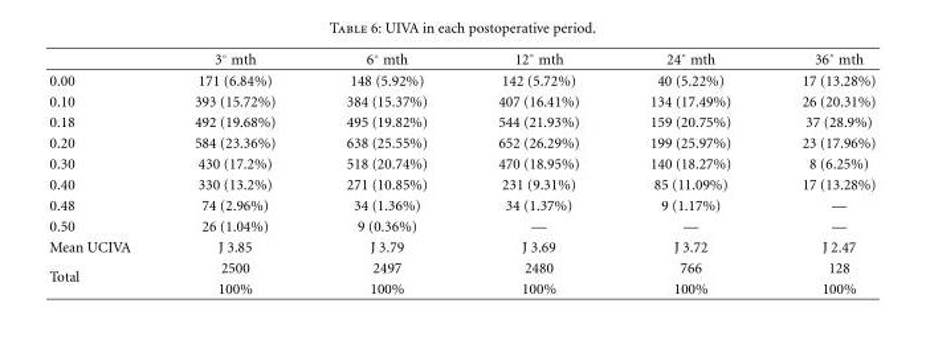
<table><thead><tr><td></td><td>3◦ mth</td><td>6◦ mth</td><td>12◦ mth</td><td>24◦ mth</td><td>36◦ mth</td></tr></thead><tbody><tr><td>0.00</td><td>171 (6.84%)</td><td>148 (5.92%)</td><td>142 (5.72%)</td><td>40 (5.22%)</td><td>17 (13.28%)</td></tr><tr><td>0.10</td><td>393 (15.72%)</td><td>384 (15.37%)</td><td>407 (16.41%)</td><td>134 (17.49%)</td><td>26 (20.31%)</td></tr><tr><td>0.18</td><td>492 (19.68%)</td><td>495 (19.82%)</td><td>544 (21.93%)</td><td>159 (20.75%)</td><td>37 (28.9%)</td></tr><tr><td>0.20</td><td>584 (23.36%)</td><td>638 (25.55%)</td><td>652 (26.29%)</td><td>199 (25.97%)</td><td>23 (17.96%)</td></tr><tr><td>0.30</td><td>430 (17.2%)</td><td>518 (20.74%)</td><td>470 (18.95%)</td><td>140 (18.27%)</td><td>8 (6.25%)</td></tr><tr><td>0.40</td><td>330 (13.2%)</td><td>271 (10.85%)</td><td>231 (9.31%)</td><td>85 (11.09%)</td><td>17 (13.28%)</td></tr><tr><td>0.48</td><td>74 (2.96%)</td><td>34 (1.36%)</td><td>34 (1.37%)</td><td>9 (1.17%)</td><td>—</td></tr><tr><td>0.50</td><td>26 (1.04%)</td><td>9 (0.36%)</td><td>—</td><td>—</td><td>—</td></tr><tr><td>Mean UCIVA</td><td>J 3.85</td><td>J 3.79</td><td>J 3.69</td><td>J 3.72</td><td>J 2.47</td></tr><tr><td rowspan="2">Total</td><td>2500</td><td>2497</td><td>2480</td><td>766</td><td>128</td></tr><tr><td>100%</td><td>100%</td><td>100%</td><td>100%</td><td>100%</td></tr></tbody></table>